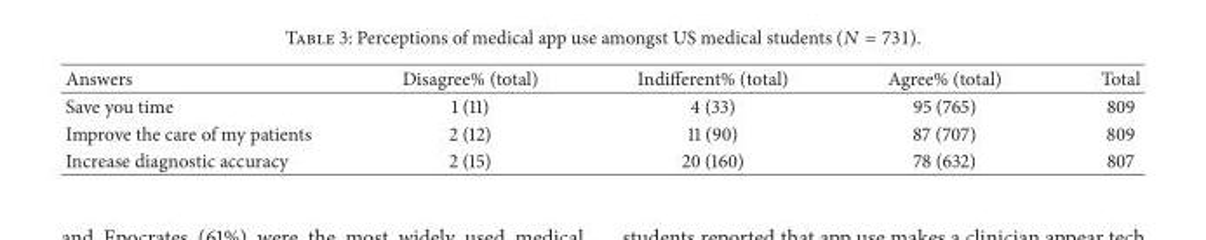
<table><thead><tr><td>Answers</td><td>Disagree% (total)</td><td>Indifferent% (total)</td><td>Agree% (total)</td><td>Total</td></tr></thead><tbody><tr><td>Save you time</td><td>1 (11)</td><td>4 (33)</td><td>95 (765)</td><td>809</td></tr><tr><td>Improve the care of my patients</td><td>2 (12)</td><td>11 (90)</td><td>87 (707)</td><td>809</td></tr><tr><td>Increase diagnostic accuracy</td><td>2 (15)</td><td>20 (160)</td><td>78 (632)</td><td>807</td></tr></tbody></table>